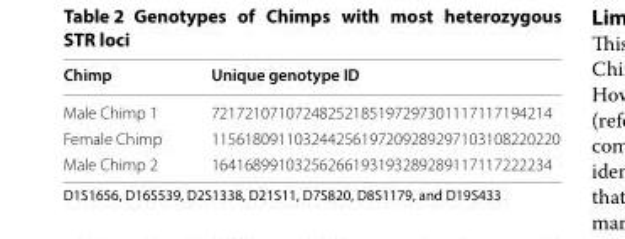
<table><thead><tr><td>Chimp</td><td>Unique genotype ID</td></tr></thead><tbody><tr><td>Male Chimp 1</td><td>72172107107248252185197297301117117194214</td></tr><tr><td>Female Chimp</td><td>115618091103244256197209289297103108220220</td></tr><tr><td>Male Chimp 2</td><td>16416899103256266193193289289117117222234</td></tr></tbody></table>